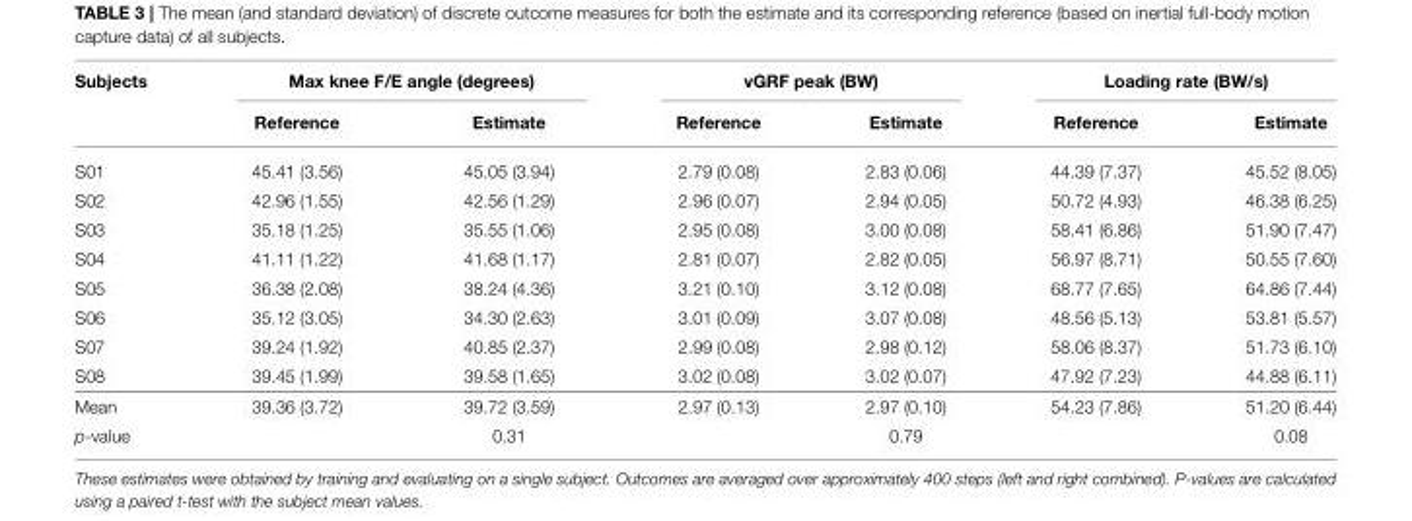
<table><thead><tr><td rowspan="2">Subjects</td><td colspan="2">Max knee F/E angle (degrees)</td><td colspan="2">vGRF peak (BW)</td><td colspan="2">Loading rate (BW/s)</td></tr><tr><td>Reference</td><td>Estimate</td><td>Reference</td><td>Estimate</td><td>Reference</td><td>Estimate</td></tr></thead><tbody><tr><td>S01</td><td>45.41 (3.56)</td><td>45.05 (3.94)</td><td>2.79 (0.08)</td><td>2.83 (0.06)</td><td>44.39 (7.37)</td><td>45.52 (8.05)</td></tr><tr><td>S02</td><td>42.96 (1.55)</td><td>42.56 (1.29)</td><td>2.96 (0.07)</td><td>2.94 (0.05)</td><td>50.72 (4.93)</td><td>46.38 (6.25)</td></tr><tr><td>S03</td><td>35.18 (1.25)</td><td>35.55 (1.06)</td><td>2.95 (0.08)</td><td>3.00 (0.08)</td><td>58.41 (6.86)</td><td>51.90 (7.47)</td></tr><tr><td>S04</td><td>41.11 (1.22)</td><td>41.68 (1.17)</td><td>2.81 (0.07)</td><td>2.82 (0.05)</td><td>56.97 (8.71)</td><td>50.55 (7.60)</td></tr><tr><td>S05</td><td>36.38 (2.08)</td><td>38.24 (4.36)</td><td>3.21 (0.10)</td><td>3.12 (0.08)</td><td>68.77 (7.65)</td><td>64.86 (7.44)</td></tr><tr><td>S06</td><td>35.12 (3.05)</td><td>34.30 (2.63)</td><td>3.01 (0.09)</td><td>3.07 (0.08)</td><td>48.56 (5.13)</td><td>53.81 (5.57)</td></tr><tr><td>S07</td><td>39.24 (1.92)</td><td>40.85 (2.37)</td><td>2.99 (0.08)</td><td>2.98 (0.12)</td><td>58.06 (8.37)</td><td>51.73 (6.10)</td></tr><tr><td>S08</td><td>39.45 (1.99)</td><td>39.58 (1.65)</td><td>3.02 (0.08)</td><td>3.02 (0.07)</td><td>47.92 (7.23)</td><td>44.88 (6.11)</td></tr><tr><td>Mean</td><td>39.36 (3.72)</td><td>39.72 (3.59)</td><td>2.97 (0.13)</td><td>2.97 (0.10)</td><td>54.23 (7.86)</td><td>51.20 (6.44)</td></tr><tr><td>p-value</td><td></td><td>0.31</td><td></td><td>0.79</td><td></td><td>0.08</td></tr></tbody></table>